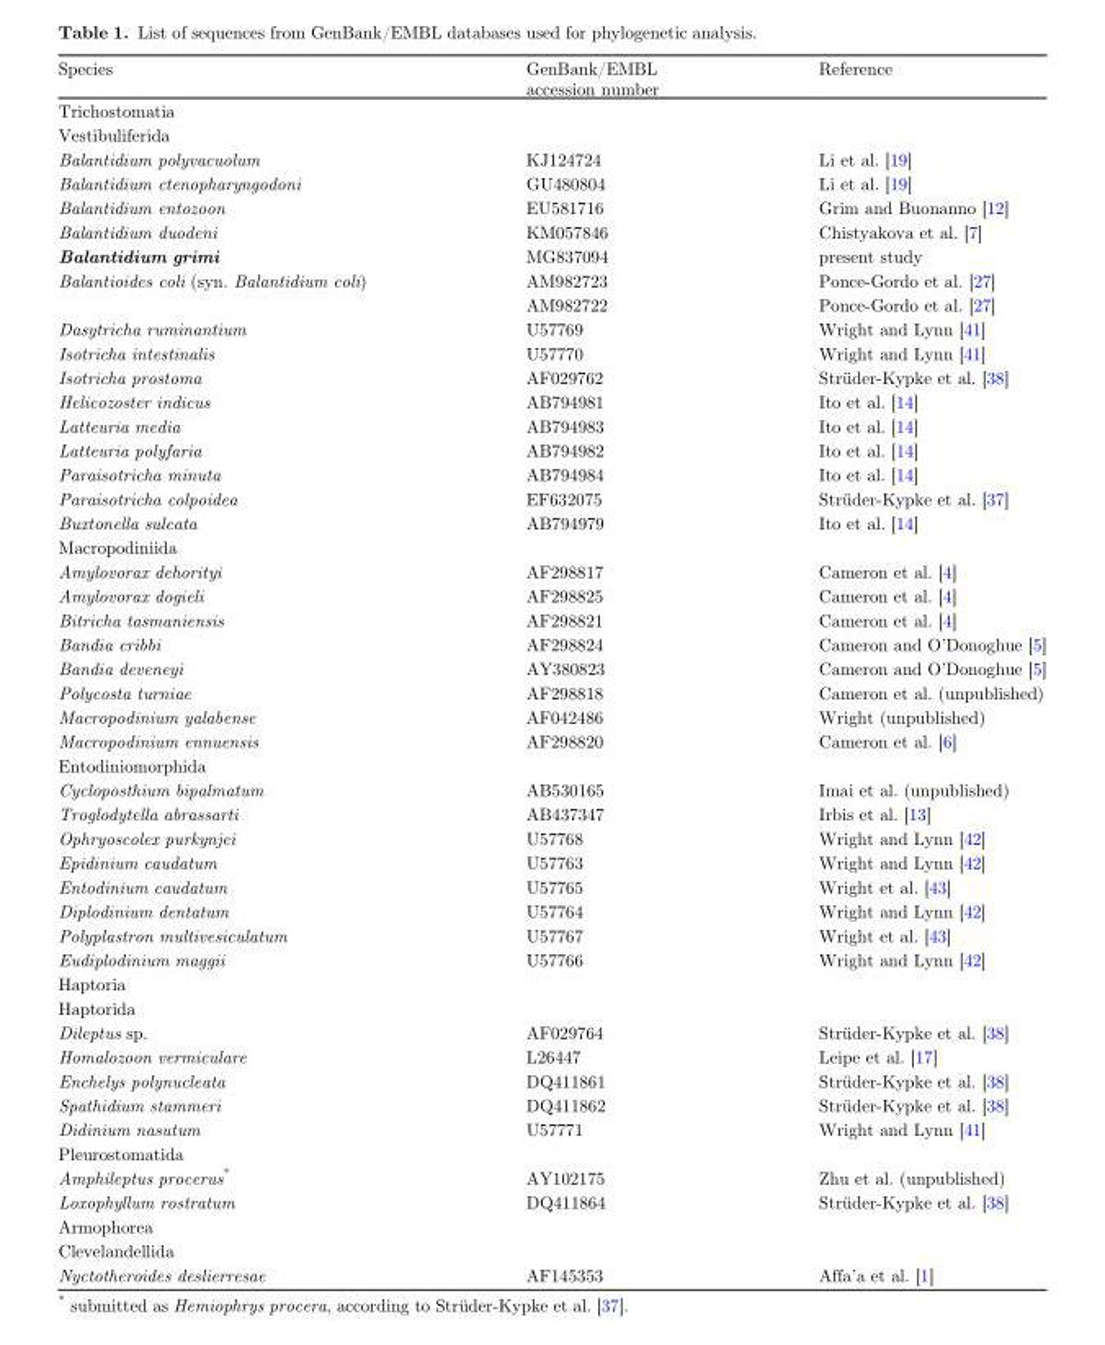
<table><thead><tr><td>Species</td><td>GenBank/EMBL accession number</td><td>Reference</td></tr></thead><tbody><tr><td colspan="3">Trichostomatia</td></tr><tr><td colspan="3">Vestibuliferida</td></tr><tr><td>Balantidium polyvacuolum</td><td>KJ124724</td><td>Li et al. [19]</td></tr><tr><td>Balantidium ctenopharyngodoni</td><td>GU480804</td><td>Li et al. [19]</td></tr><tr><td>Balantidium entozoon</td><td>EU581716</td><td>Grim and Buonanno [12]</td></tr><tr><td>Balantidium duodeni</td><td>KM057846</td><td>Chistyakova et al. [7]</td></tr><tr><td>Balantidium grimi</td><td>MG837094</td><td>present study</td></tr><tr><td rowspan="2">Balantioides coli (syn. Balantidium coli)</td><td>AM982723</td><td>Ponce-Gordo et al. [27]</td></tr><tr><td>AM982722</td><td>Ponce-Gordo et al. [27]</td></tr><tr><td>Dasytricha ruminantium</td><td>U57769</td><td>Wright and Lynn [41]</td></tr><tr><td>Isotricha intestinalis</td><td>U57770</td><td>Wright and Lynn [41]</td></tr><tr><td>Isotricha prostoma</td><td>AF029762</td><td>Strüder-Kypke et al. [38]</td></tr><tr><td>Helicozoster indicus</td><td>AB794981</td><td>Ito et al. [14]</td></tr><tr><td>Latteuria media</td><td>AB794983</td><td>Ito et al. [14]</td></tr><tr><td>Latteuria polyfaria</td><td>AB794982</td><td>Ito et al. [14]</td></tr><tr><td>Paraisotricha minuta</td><td>AB794984</td><td>Ito et al. [14]</td></tr><tr><td>Paraisotricha colpoidea</td><td>EF632075</td><td>Strüder-Kypke et al. [37]</td></tr><tr><td>Buxtonella sulcata</td><td>AB794979</td><td>Ito et al. [14]</td></tr><tr><td colspan="3">Macropodiniida</td></tr><tr><td>Amylovorax dehorityi</td><td>AF298817</td><td>Cameron et al. [4]</td></tr><tr><td>Amylovorax dogieli</td><td>AF298825</td><td>Cameron et al. [4]</td></tr><tr><td>Bitricha tasmaniensis</td><td>AF298821</td><td>Cameron et al. [4]</td></tr><tr><td>Bandia cribbi</td><td>AF298824</td><td>Cameron and O’Donoghue [5]</td></tr><tr><td>Bandia deveneyi</td><td>AY380823</td><td>Cameron and O’Donoghue [5]</td></tr><tr><td>Polycosta turniae</td><td>AF298818</td><td>Cameron et al. (unpublished)</td></tr><tr><td>Macropodinium yalabense</td><td>AF042486</td><td>Wright (unpublished)</td></tr><tr><td>Macropodinium ennuensis</td><td>AF298820</td><td>Cameron et al. [6]</td></tr><tr><td colspan="3">Entodiniomorphida</td></tr><tr><td>Cycloposthium bipalmatum</td><td>AB530165</td><td>Imai et al. (unpublished)</td></tr><tr><td>Troglodytella abrassarti</td><td>AB437347</td><td>Irbis et al. [13]</td></tr><tr><td>Ophryoscolex purkynjei</td><td>U57768</td><td>Wright and Lynn [42]</td></tr><tr><td>Epidinium caudatum</td><td>U57763</td><td>Wright and Lynn [42]</td></tr><tr><td>Entodinium caudatum</td><td>U57765</td><td>Wright et al. [43]</td></tr><tr><td>Diplodinium dentatum</td><td>U57764</td><td>Wright and Lynn [42]</td></tr><tr><td>Polyplastron multivesiculatum</td><td>U57767</td><td>Wright et al. [43]</td></tr><tr><td>Eudiplodinium maggii</td><td>U57766</td><td>Wright and Lynn [42]</td></tr><tr><td colspan="3">Haptoria</td></tr><tr><td colspan="3">Haptorida</td></tr><tr><td>Dileptus sp.</td><td>AF029764</td><td>Strüder-Kypke et al. [38]</td></tr><tr><td>Homalozoon vermiculare</td><td>L26447</td><td>Leipe et al. [17]</td></tr><tr><td>Enchelys polynucleata</td><td>DQ411861</td><td>Strüder-Kypke et al. [38]</td></tr><tr><td>Spathidium stammeri</td><td>DQ411862</td><td>Strüder-Kypke et al. [38]</td></tr><tr><td>Didinium nasutum</td><td>U57771</td><td>Wright and Lynn [41]</td></tr><tr><td colspan="3">Pleurostomatida</td></tr><tr><td>Amphileptus procerus*</td><td>AY102175</td><td>Zhu et al. (unpublished)</td></tr><tr><td>Loxophyllum rostratum</td><td>DQ411864</td><td>Strüder-Kypke et al. [38]</td></tr><tr><td colspan="3">Armophorea</td></tr><tr><td colspan="3">Clevelandellida</td></tr><tr><td>Nyctotheroides deslierresae</td><td>AF145353</td><td>Affa’a et al. [1]</td></tr></tbody></table>